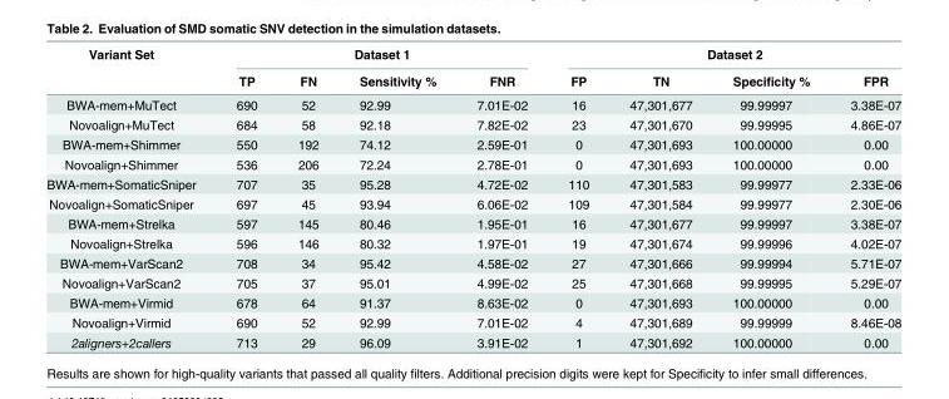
<table><thead><tr><td rowspan="2">Variant Set</td><td colspan="4">Dataset 1</td><td colspan="4">Dataset 2</td></tr><tr><td>TP</td><td>FN</td><td>Sensitivity %</td><td>FNR</td><td>FP</td><td>TN</td><td>Specificity %</td><td>FPR</td></tr></thead><tbody><tr><td>BWA-mem+MuTect</td><td>690</td><td>52</td><td>92.99</td><td>7.01E-02</td><td>16</td><td>47,301,677</td><td>99.99997</td><td>3.38E-07</td></tr><tr><td>Novoalign+MuTect</td><td>684</td><td>58</td><td>92.18</td><td>7.82E-02</td><td>23</td><td>47,301,670</td><td>99.99995</td><td>4.86E-07</td></tr><tr><td>BWA-mem+Shimmer</td><td>550</td><td>192</td><td>74.12</td><td>2.59E-01</td><td>0</td><td>47,301,693</td><td>100.00000</td><td>0.00</td></tr><tr><td>Novoalign+Shimmer</td><td>536</td><td>206</td><td>72.24</td><td>2.78E-01</td><td>0</td><td>47,301,693</td><td>100.00000</td><td>0.00</td></tr><tr><td>BWA-mem+SomaticSniper</td><td>707</td><td>35</td><td>95.28</td><td>4.72E-02</td><td>110</td><td>47,301,583</td><td>99.99977</td><td>2.33E-06</td></tr><tr><td>Novoalign+SomaticSniper</td><td>697</td><td>45</td><td>93.94</td><td>6.06E-02</td><td>109</td><td>47,301,584</td><td>99.99977</td><td>2.30E-06</td></tr><tr><td>BWA-mem+Strelka</td><td>597</td><td>145</td><td>80.46</td><td>1.95E-01</td><td>16</td><td>47,301,677</td><td>99.99997</td><td>3.38E-07</td></tr><tr><td>Novoalign+Strelka</td><td>596</td><td>146</td><td>80.32</td><td>1.97E-01</td><td>19</td><td>47,301,674</td><td>99.99996</td><td>4.02E-07</td></tr><tr><td>BWA-mem+VarScan2</td><td>708</td><td>34</td><td>95.42</td><td>4.58E-02</td><td>27</td><td>47,301,666</td><td>99.99994</td><td>5.71E-07</td></tr><tr><td>Novoalign+VarScan2</td><td>705</td><td>37</td><td>95.01</td><td>4.99E-02</td><td>25</td><td>47,301,668</td><td>99.99995</td><td>5.29E-07</td></tr><tr><td>BWA-mem+Virmid</td><td>678</td><td>64</td><td>91.37</td><td>8.63E-02</td><td>0</td><td>47,301,693</td><td>100.00000</td><td>0.00</td></tr><tr><td>Novoalign+Virmid</td><td>690</td><td>52</td><td>92.99</td><td>7.01E-02</td><td>4</td><td>47,301,689</td><td>99.99999</td><td>8.46E-08</td></tr><tr><td>2aligners+2callers</td><td>713</td><td>29</td><td>96.09</td><td>3.91E-02</td><td>1</td><td>47,301,692</td><td>100.00000</td><td>0.00</td></tr></tbody></table>